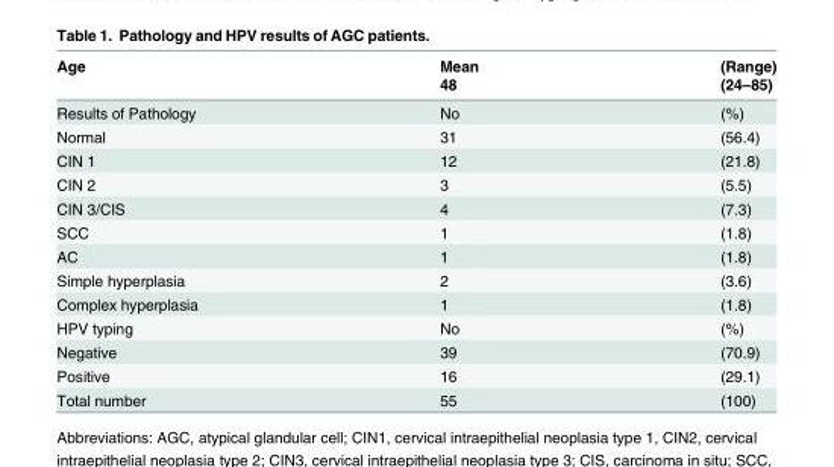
<table><thead><tr><td rowspan="2">Age</td><td rowspan="2">Mean 48</td><td rowspan="2">(Range) (24–85)</td></tr><tr></tr></thead><tbody><tr><td>Results of Pathology</td><td>No</td><td>(%)</td></tr><tr><td>Normal</td><td>31</td><td>(56.4)</td></tr><tr><td>CIN 1</td><td>12</td><td>(21.8)</td></tr><tr><td>CIN 2</td><td>3</td><td>(5.5)</td></tr><tr><td>CIN 3/CIS</td><td>4</td><td>(7.3)</td></tr><tr><td>SCC</td><td>1</td><td>(1.8)</td></tr><tr><td>AC</td><td>1</td><td>(1.8)</td></tr><tr><td>Simple hyperplasia</td><td>2</td><td>(3.6)</td></tr><tr><td>Complex hyperplasia</td><td>1</td><td>(1.8)</td></tr><tr><td>HPV typing</td><td>No</td><td>(%)</td></tr><tr><td>Negative</td><td>39</td><td>(70.9)</td></tr><tr><td>Positive</td><td>16</td><td>(29.1)</td></tr><tr><td>Total number</td><td>55</td><td>(100)</td></tr></tbody></table>